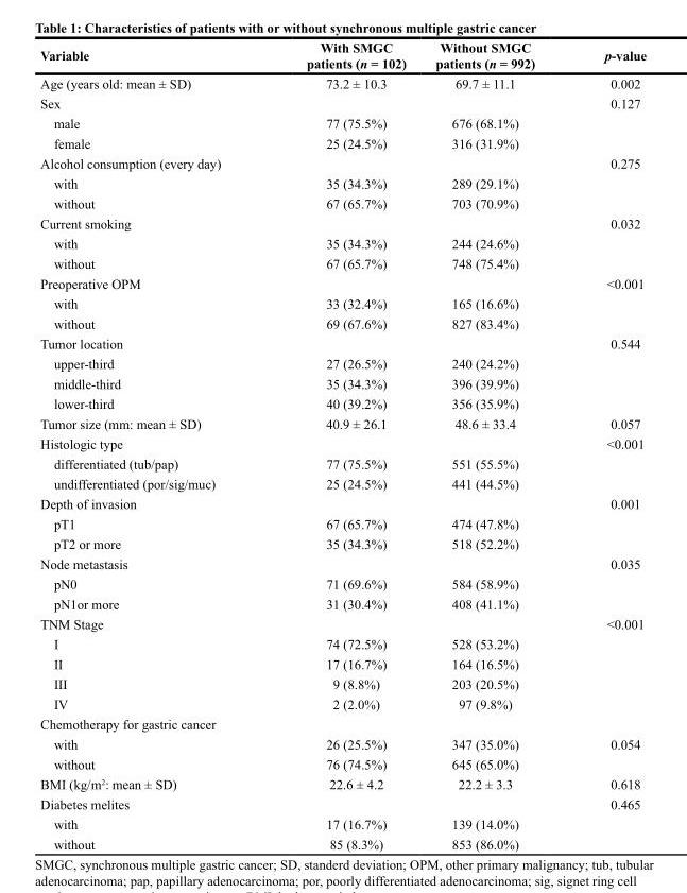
<table><thead><tr><td>Variable</td><td>With SMGC patients (n = 102)</td><td>Without SMGC patients (n = 992)</td><td>p-value</td></tr></thead><tbody><tr><td>Age (years old: mean ± SD)</td><td>73.2 ± 10.3</td><td>69.7 ± 11.1</td><td>0.002</td></tr><tr><td>Sex</td><td></td><td></td><td>0.127</td></tr><tr><td>male</td><td>77 (75.5%)</td><td>676 (68.1%)</td><td></td></tr><tr><td>female</td><td>25 (24.5%)</td><td>316 (31.9%)</td><td></td></tr><tr><td>Alcohol consumption (every day)</td><td></td><td></td><td>0.275</td></tr><tr><td>with</td><td>35 (34.3%)</td><td>289 (29.1%)</td><td></td></tr><tr><td>without</td><td>67 (65.7%)</td><td>703 (70.9%)</td><td></td></tr><tr><td>Current smoking</td><td></td><td></td><td>0.032</td></tr><tr><td>with</td><td>35 (34.3%)</td><td>244 (24.6%)</td><td></td></tr><tr><td>without</td><td>67 (65.7%)</td><td>748 (75.4%)</td><td></td></tr><tr><td>Preoperative OPM</td><td></td><td></td><td>&lt;0.001</td></tr><tr><td>with</td><td>33 (32.4%)</td><td>165 (16.6%)</td><td></td></tr><tr><td>without</td><td>69 (67.6%)</td><td>827 (83.4%)</td><td></td></tr><tr><td>Tumor location</td><td></td><td></td><td>0.544</td></tr><tr><td>upper-third</td><td>27 (26.5%)</td><td>240 (24.2%)</td><td></td></tr><tr><td>middle-third</td><td>35 (34.3%)</td><td>396 (39.9%)</td><td></td></tr><tr><td>lower-third</td><td>40 (39.2%)</td><td>356 (35.9%)</td><td></td></tr><tr><td>Tumor size (mm: mean ± SD)</td><td>40.9 ± 26.1</td><td>48.6 ± 33.4</td><td>0.057</td></tr><tr><td>Histologic type</td><td></td><td></td><td>&lt;0.001</td></tr><tr><td>differentiated (tub/pap)</td><td>77 (75.5%)</td><td>551 (55.5%)</td><td></td></tr><tr><td>undifferentiated (por/sig/muc)</td><td>25 (24.5%)</td><td>441 (44.5%)</td><td></td></tr><tr><td>Depth of invasion</td><td></td><td></td><td>0.001</td></tr><tr><td>pT1</td><td>67 (65.7%)</td><td>474 (47.8%)</td><td></td></tr><tr><td>pT2 or more</td><td>35 (34.3%)</td><td>518 (52.2%)</td><td></td></tr><tr><td>Node metastasis</td><td></td><td></td><td>0.035</td></tr><tr><td>pN0</td><td>71 (69.6%)</td><td>584 (58.9%)</td><td></td></tr><tr><td>pN1or more</td><td>31 (30.4%)</td><td>408 (41.1%)</td><td></td></tr><tr><td>TNM Stage</td><td></td><td></td><td>&lt;0.001</td></tr><tr><td>I</td><td>74 (72.5%)</td><td>528 (53.2%)</td><td></td></tr><tr><td>II</td><td>17 (16.7%)</td><td>164 (16.5%)</td><td></td></tr><tr><td>III</td><td>9 (8.8%)</td><td>203 (20.5%)</td><td></td></tr><tr><td>IV</td><td>2 (2.0%)</td><td>97 (9.8%)</td><td></td></tr><tr><td colspan="4">Chemotherapy for gastric cancer</td></tr><tr><td>with</td><td>26 (25.5%)</td><td>347 (35.0%)</td><td>0.054</td></tr><tr><td>without</td><td>76 (74.5%)</td><td>645 (65.0%)</td><td></td></tr><tr><td>BMI (kg/m<sup>2</sup>: mean ± SD)</td><td>22.6 ± 4.2</td><td>22.2 ± 3.3</td><td>0.618</td></tr><tr><td>Diabetes melites</td><td></td><td></td><td>0.465</td></tr><tr><td>with</td><td>17 (16.7%)</td><td>139 (14.0%)</td><td></td></tr><tr><td>without</td><td>85 (8.3%)</td><td>853 (86.0%)</td><td></td></tr></tbody></table>